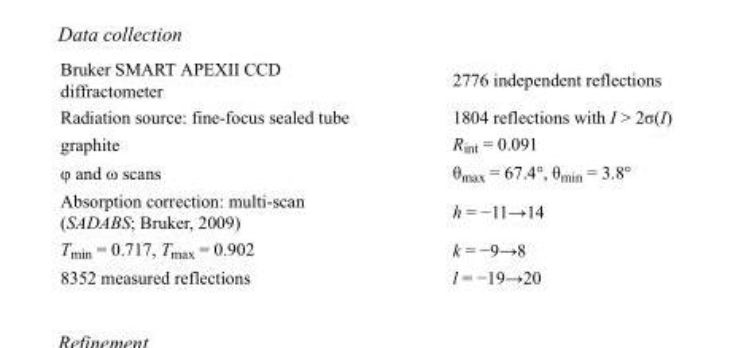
<table><tbody><tr><td>Bruker SMART APEXII CCD diffractometer</td><td>2776 independent reflections</td></tr><tr><td>Radiation source: fine-focus sealed tube</td><td>1804 reflections with I &gt; 2σ(I)</td></tr><tr><td>graphite</td><td>R<sub>int</sub> = 0.091</td></tr><tr><td>φ and ω scans</td><td>θ<sub>max</sub> = 67.4°, θ<sub>min</sub> = 3.8°</td></tr><tr><td>Absorption correction: multi-scan (SADABS; Bruker, 2009)</td><td>h = −11→14</td></tr><tr><td>T<sub>min</sub> = 0.717, T<sub>max</sub> = 0.902</td><td>k = −9→8</td></tr><tr><td>8352 measured reflections</td><td>l = −19→20</td></tr></tbody></table>